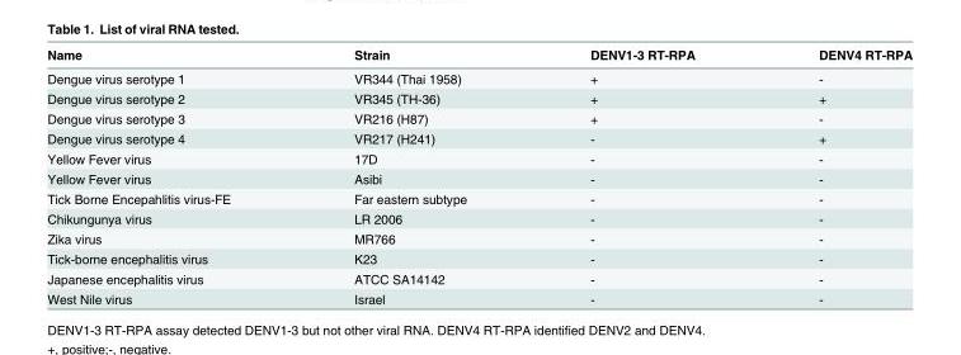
<table><thead><tr><td>Name</td><td>Strain</td><td>DENV1-3 RT-RPA</td><td>DENV4 RT-RPA</td></tr></thead><tbody><tr><td>Dengue virus serotype 1</td><td>VR344 (Thai 1958)</td><td>+</td><td>-</td></tr><tr><td>Dengue virus serotype 2</td><td>VR345 (TH-36)</td><td>+</td><td>+</td></tr><tr><td>Dengue virus serotype 3</td><td>VR216 (H87)</td><td>+</td><td>-</td></tr><tr><td>Dengue virus serotype 4</td><td>VR217 (H241)</td><td>-</td><td>+</td></tr><tr><td>Yellow Fever virus</td><td>17D</td><td>-</td><td>-</td></tr><tr><td>Yellow Fever virus</td><td>Asibi</td><td>-</td><td>-</td></tr><tr><td>Tick Borne Encepahlitis virus-FE</td><td>Far eastern subtype</td><td>-</td><td>-</td></tr><tr><td>Chikungunya virus</td><td>LR 2006</td><td>-</td><td>-</td></tr><tr><td>Zika virus</td><td>MR766</td><td>-</td><td>-</td></tr><tr><td>Tick-borne encephalitis virus</td><td>K23</td><td>-</td><td>-</td></tr><tr><td>Japanese encephalitis virus</td><td>ATCC SA14142</td><td>-</td><td>-</td></tr><tr><td>West Nile virus</td><td>Israel</td><td>-</td><td>-</td></tr></tbody></table>